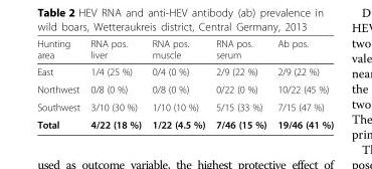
<table><thead><tr><td>Hunting area</td><td>RNA pos. liver</td><td>RNA pos. muscle</td><td>RNA pos. serum</td><td>Ab pos.</td></tr></thead><tbody><tr><td>East</td><td>1/4 (25 %)</td><td>0/4 (0 %)</td><td>2/9 (22 %)</td><td>2/9 (22 %)</td></tr><tr><td>Northwest</td><td>0/8 (0 %)</td><td>0/8 (0 %)</td><td>0/22 (0 %)</td><td>10/22 (45 %)</td></tr><tr><td>Southwest</td><td>3/10 (30 %)</td><td>1/10 (10 %)</td><td>5/15 (33 %)</td><td>7/15 (47 %)</td></tr><tr><td>Total</td><td>4/22 (18 %)</td><td>1/22 (4.5 %)</td><td>7/46 (15 %)</td><td>19/46 (41 %)</td></tr></tbody></table>